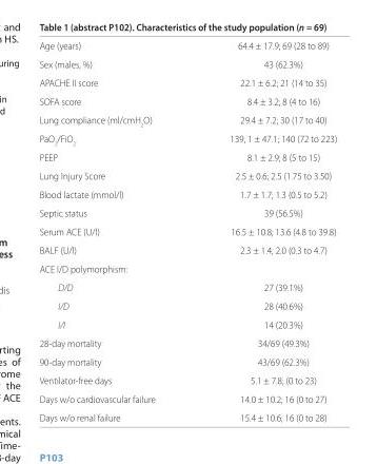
<table><tbody><tr><td>Age (years)</td><td>64.4 ± 17.9; 69 (28 to 89)</td></tr><tr><td>Sex (males, %)</td><td>43 (62.3%)</td></tr><tr><td>APACHE II score</td><td>22.1 ± 6.2; 21 (14 to 35)</td></tr><tr><td>SOFA score</td><td>8.4 ± 3.2; 8 (4 to 16)</td></tr><tr><td>Lung compliance (ml/cmH<sub>2</sub>O)</td><td>29.4 ± 7.2; 30 (17 to 40)</td></tr><tr><td>PaO<sub>2</sub>/FiO<sub>2</sub></td><td>139, 1 ± 47.1; 140 (72 to 223)</td></tr><tr><td>PEEP</td><td>8.1 ± 2.9; 8 (5 to 15)</td></tr><tr><td>Lung Injury Score</td><td>2.5 ± 0.6; 2.5 (1.75 to 3.50)</td></tr><tr><td>Blood lactate (mmol/l)</td><td>1.7 ± 1.7; 1.3 (0.5 to 5.2)</td></tr><tr><td>Septic status</td><td>39 (56.5%)</td></tr><tr><td>Serum ACE (U/l)</td><td>16.5 ± 10.8; 13.6 (4.8 to 39.8)</td></tr><tr><td>BALF (U/l)</td><td>2.3 ± 1.4; 2.0 (0.3 to 4.7)</td></tr><tr><td colspan="2">ACE I/D polymorphism:</td></tr><tr><td>D/D</td><td>27 (39.1%)</td></tr><tr><td>I/D</td><td>28 (40.6%)</td></tr><tr><td>I/I</td><td>14 (20.3%)</td></tr><tr><td>28-day mortality</td><td>34/69 (49.3%)</td></tr><tr><td>90-day mortality</td><td>43/69 (62.3%)</td></tr><tr><td>Ventilator-free days</td><td>5.1 ± 7.8; (0 to 23)</td></tr><tr><td>Days w/o cardiovascular failure</td><td>14.0 ± 10.2; 16 (0 to 27)</td></tr><tr><td>Days w/o renal failure</td><td>15.4 ± 10.6; 16 (0 to 28)</td></tr></tbody></table>